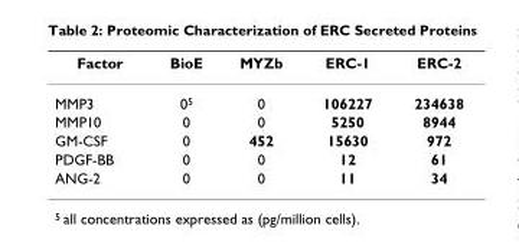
<table><thead><tr><td>Factor</td><td>BioE</td><td>MYZb</td><td>ERC-1</td><td>ERC-2</td></tr></thead><tbody><tr><td>MMP3</td><td>0<sup>5</sup></td><td>0</td><td>106227</td><td>234638</td></tr><tr><td>MMP10</td><td>0</td><td>0</td><td>5250</td><td>8944</td></tr><tr><td>GM-CSF</td><td>0</td><td>452</td><td>15630</td><td>972</td></tr><tr><td>PDGF-BB</td><td>0</td><td>0</td><td>12</td><td>61</td></tr><tr><td>ANG-2</td><td>0</td><td>0</td><td>11</td><td>34</td></tr></tbody></table>